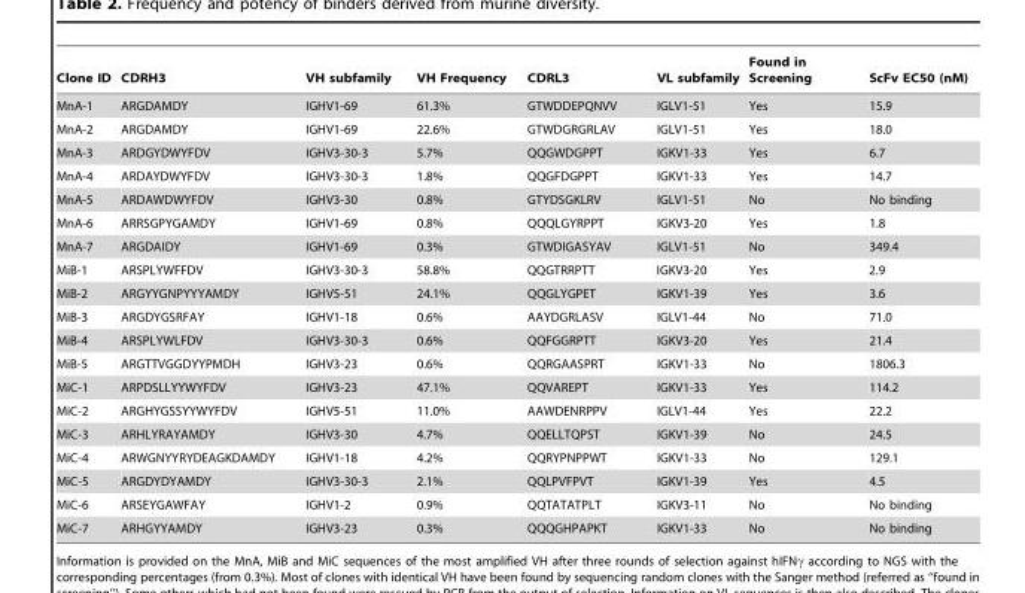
<table><thead><tr><td>Clone ID</td><td>CDRH3</td><td>VH subfamily</td><td>VH Frequency</td><td>CDRL3</td><td>VL subfamily</td><td>Found in Screening</td><td>ScFv EC50 (nM)</td></tr></thead><tbody><tr><td>MnA-1</td><td>ARGDAMDY</td><td>IGHV1-69</td><td>61.3%</td><td>GTWDDEPQNVV</td><td>IGLV1-51</td><td>Yes</td><td>15.9</td></tr><tr><td>MnA-2</td><td>ARGDAMDY</td><td>IGHV1-69</td><td>22.6%</td><td>GTWDGRGRLAV</td><td>IGLV1-51</td><td>Yes</td><td>18.0</td></tr><tr><td>MnA-3</td><td>ARDGYDWYFDV</td><td>IGHV3-30-3</td><td>5.7%</td><td>QQGWDGPPT</td><td>IGKV1-33</td><td>Yes</td><td>6.7</td></tr><tr><td>MnA-4</td><td>ARDAYDWYFDV</td><td>IGHV3-30-3</td><td>1.8%</td><td>QQGFDGPPT</td><td>IGKV1-33</td><td>Yes</td><td>14.7</td></tr><tr><td>MnA-5</td><td>ARDAWDWYFDV</td><td>IGHV3-30</td><td>0.8%</td><td>GTYDSGKLRV</td><td>IGLV1-51</td><td>No</td><td>No binding</td></tr><tr><td>MnA-6</td><td>ARRSGPYGAMDY</td><td>IGHV1-69</td><td>0.8%</td><td>QQQLGYRPPT</td><td>IGKV3-20</td><td>Yes</td><td>1.8</td></tr><tr><td>MnA-7</td><td>ARGDAIDY</td><td>IGHV1-69</td><td>0.3%</td><td>GTWDIGASYAV</td><td>IGLV1-51</td><td>No</td><td>349.4</td></tr><tr><td>MiB-1</td><td>ARSPLYWFFDV</td><td>IGHV3-30-3</td><td>58.8%</td><td>QQGTRRPTT</td><td>IGKV3-20</td><td>Yes</td><td>2.9</td></tr><tr><td>MiB-2</td><td>ARGYYGNPYYYAMDY</td><td>IGHV5-51</td><td>24.1%</td><td>QQGLYGPET</td><td>IGKV1-39</td><td>Yes</td><td>3.6</td></tr><tr><td>MiB-3</td><td>ARGDYGSRFAY</td><td>IGHV1-18</td><td>0.6%</td><td>AAYDGRLASV</td><td>IGLV1-44</td><td>No</td><td>71.0</td></tr><tr><td>MiB-4</td><td>ARSPLYWLFDV</td><td>IGHV3-30-3</td><td>0.6%</td><td>QQFGGRPTT</td><td>IGKV3-20</td><td>Yes</td><td>21.4</td></tr><tr><td>MiB-5</td><td>ARGTTVGGDYYPMDH</td><td>IGHV3-23</td><td>0.6%</td><td>QQRGAASPRT</td><td>IGKV1-33</td><td>No</td><td>1806.3</td></tr><tr><td>MiC-1</td><td>ARPDSLLYYWYFDV</td><td>IGHV3-23</td><td>47.1%</td><td>QQVAREPT</td><td>IGKV1-33</td><td>Yes</td><td>114.2</td></tr><tr><td>MiC-2</td><td>ARGHYGSSYYWYFDV</td><td>IGHV5-51</td><td>11.0%</td><td>AAWDENRPPV</td><td>IGLV1-44</td><td>Yes</td><td>22.2</td></tr><tr><td>MiC-3</td><td>ARHLYRAYAMDY</td><td>IGHV3-30</td><td>4.7%</td><td>QQELLTQPST</td><td>IGKV1-39</td><td>No</td><td>24.5</td></tr><tr><td>MiC-4</td><td>ARWGNYYRYDEAGKDAMDY</td><td>IGHV1-18</td><td>4.2%</td><td>QQRYPNPPWT</td><td>IGKV1-33</td><td>No</td><td>129.1</td></tr><tr><td>MiC-5</td><td>ARGDYDYAMDY</td><td>IGHV3-30-3</td><td>2.1%</td><td>QQLPVFPVT</td><td>IGKV1-39</td><td>Yes</td><td>4.5</td></tr><tr><td>MiC-6</td><td>ARSEYGAWFAY</td><td>IGHV1-2</td><td>0.9%</td><td>QQTATATPLT</td><td>IGKV3-11</td><td>No</td><td>No binding</td></tr><tr><td>MiC-7</td><td>ARHGYYAMDY</td><td>IGHV3-23</td><td>0.3%</td><td>QQQGHPAPKT</td><td>IGKV1-33</td><td>No</td><td>No binding</td></tr></tbody></table>